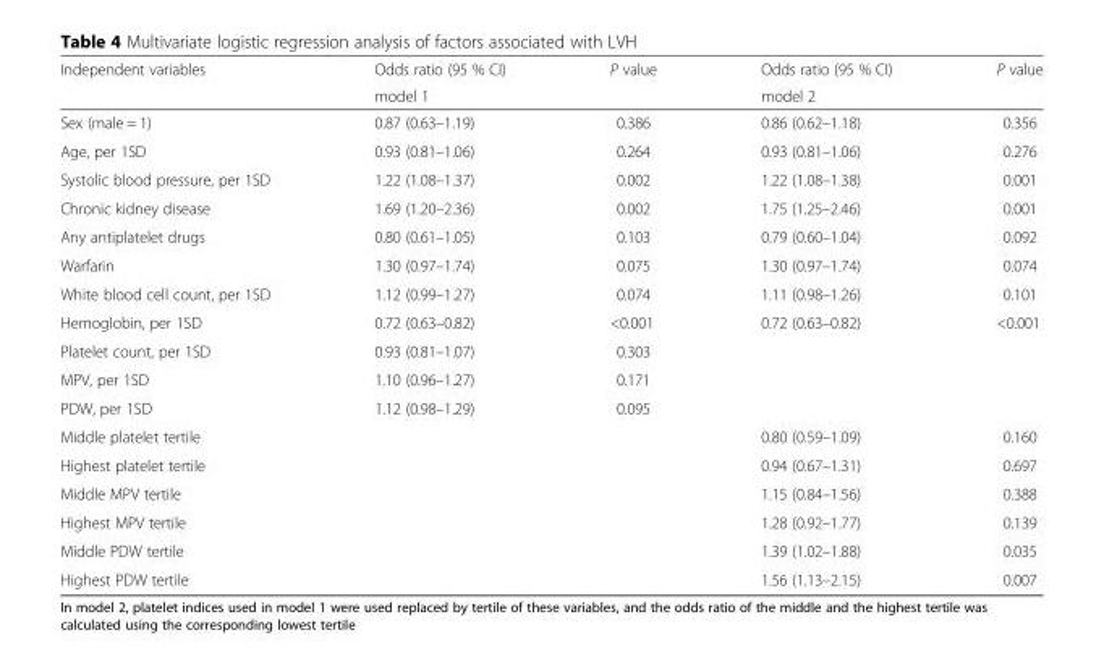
<table><thead><tr><td rowspan="2">Independent variables</td><td>Odds ratio (95 % CI)</td><td>P value</td><td>Odds ratio (95 % CI)</td><td>P value</td></tr><tr><td colspan="2">model 1</td><td colspan="2">model 2</td></tr></thead><tbody><tr><td>Sex (male = 1)</td><td>0.87 (0.63–1.19)</td><td>0.386</td><td>0.86 (0.62–1.18)</td><td>0.356</td></tr><tr><td>Age, per 1SD</td><td>0.93 (0.81–1.06)</td><td>0.264</td><td>0.93 (0.81–1.06)</td><td>0.276</td></tr><tr><td>Systolic blood pressure, per 1SD</td><td>1.22 (1.08–1.37)</td><td>0.002</td><td>1.22 (1.08–1.38)</td><td>0.001</td></tr><tr><td>Chronic kidney disease</td><td>1.69 (1.20–2.36)</td><td>0.002</td><td>1.75 (1.25–2.46)</td><td>0.001</td></tr><tr><td>Any antiplatelet drugs</td><td>0.80 (0.61–1.05)</td><td>0.103</td><td>0.79 (0.60–1.04)</td><td>0.092</td></tr><tr><td>Warfarin</td><td>1.30 (0.97–1.74)</td><td>0.075</td><td>1.30 (0.97–1.74)</td><td>0.074</td></tr><tr><td>White blood cell count, per 1SD</td><td>1.12 (0.99–1.27)</td><td>0.074</td><td>1.11 (0.98–1.26)</td><td>0.101</td></tr><tr><td>Hemoglobin, per 1SD</td><td>0.72 (0.63–0.82)</td><td>&lt;0.001</td><td>0.72 (0.63–0.82)</td><td>&lt;0.001</td></tr><tr><td>Platelet count, per 1SD</td><td>0.93 (0.81–1.07)</td><td>0.303</td><td></td><td></td></tr><tr><td>MPV, per 1SD</td><td>1.10 (0.96–1.27)</td><td>0.171</td><td></td><td></td></tr><tr><td>PDW, per 1SD</td><td>1.12 (0.98–1.29)</td><td>0.095</td><td></td><td></td></tr><tr><td>Middle platelet tertile</td><td></td><td></td><td>0.80 (0.59–1.09)</td><td>0.160</td></tr><tr><td>Highest platelet tertile</td><td></td><td></td><td>0.94 (0.67–1.31)</td><td>0.697</td></tr><tr><td>Middle MPV tertile</td><td></td><td></td><td>1.15 (0.84–1.56)</td><td>0.388</td></tr><tr><td>Highest MPV tertile</td><td></td><td></td><td>1.28 (0.92–1.77)</td><td>0.139</td></tr><tr><td>Middle PDW tertile</td><td></td><td></td><td>1.39 (1.02–1.88)</td><td>0.035</td></tr><tr><td>Highest PDW tertile</td><td></td><td></td><td>1.56 (1.13–2.15)</td><td>0.007</td></tr></tbody></table>